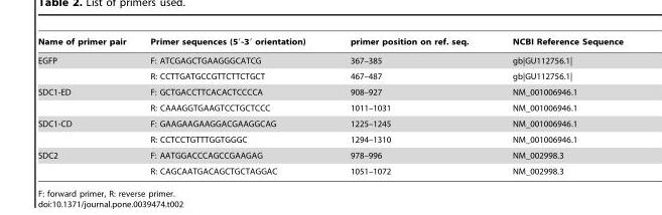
<table><thead><tr><td>Name of primer pair</td><td>Primer sequences (5′-3′ orientation)</td><td>primer position on ref. seq.</td><td>NCBI Reference Sequence</td></tr></thead><tbody><tr><td rowspan="2">EGFP</td><td>F: ATCGAGCTGAAGGGCATCG</td><td>367–385</td><td>gb|GU112756.1|</td></tr><tr><td>R: CCTTGATGCCGTTCTTCTGCT</td><td>467–487</td><td>gb|GU112756.1|</td></tr><tr><td rowspan="2">SDC1-ED</td><td>F: GCTGACCTTCACACTCCCCA</td><td>908–927</td><td>NM_001006946.1</td></tr><tr><td>R: CAAAGGTGAAGTCCTGCTCCC</td><td>1011–1031</td><td>NM_001006946.1</td></tr><tr><td rowspan="2">SDC1-CD</td><td>F: GAAGAAGAAGGACGAAGGCAG</td><td>1225–1245</td><td>NM_001006946.1</td></tr><tr><td>R: CCTCCTGTTTGGTGGGC</td><td>1294–1310</td><td>NM_001006946.1</td></tr><tr><td rowspan="2">SDC2</td><td>F: AATGGACCCAGCCGAAGAG</td><td>978–996</td><td>NM_002998.3</td></tr><tr><td>R: CAGCAATGACAGCTGCTAGGAC</td><td>1051–1072</td><td>NM_002998.3</td></tr></tbody></table>